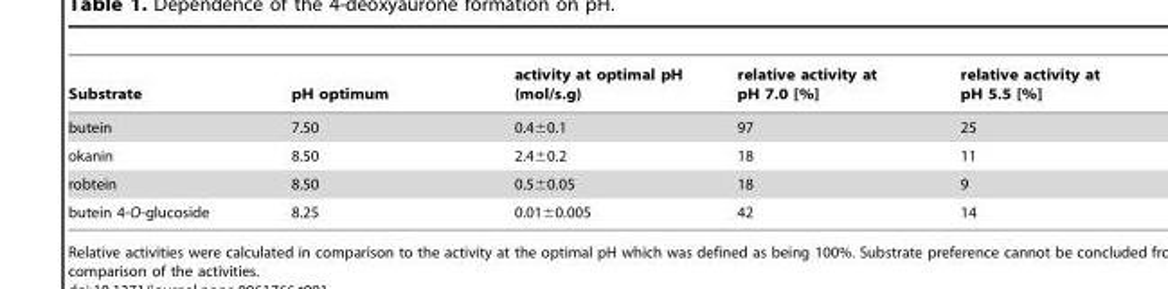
<table><thead><tr><td>Substrate</td><td>pH optimum</td><td>activity at optimal pH (mol/s.g)</td><td>relative activity at pH 7.0 [%]</td><td>relative activity at pH 5.5 [%]</td></tr></thead><tbody><tr><td>butein</td><td>7.50</td><td>0.4±0.1</td><td>97</td><td>25</td></tr><tr><td>okanin</td><td>8.50</td><td>2.4±0.2</td><td>18</td><td>11</td></tr><tr><td>robtein</td><td>8.50</td><td>0.5±0.05</td><td>18</td><td>9</td></tr><tr><td>butein 4-O-glucoside</td><td>8.25</td><td>0.01±0.005</td><td>42</td><td>14</td></tr></tbody></table>